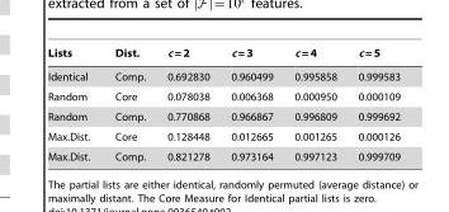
<table><thead><tr><td>Lists</td><td>Dist.</td><td>c = 2</td><td>c = 3</td><td>c = 4</td><td>c = 5</td></tr></thead><tbody><tr><td>Identical</td><td>Comp.</td><td>0.692830</td><td>0.960499</td><td>0.995858</td><td>0.999583</td></tr><tr><td>Random</td><td>Core</td><td>0.078038</td><td>0.006368</td><td>0.000950</td><td>0.000109</td></tr><tr><td>Random</td><td>Comp.</td><td>0.770868</td><td>0.966867</td><td>0.996809</td><td>0.999692</td></tr><tr><td>Max.Dist.</td><td>Core</td><td>0.128448</td><td>0.012665</td><td>0.001265</td><td>0.000126</td></tr><tr><td>Max.Dist.</td><td>Comp.</td><td>0.821278</td><td>0.973164</td><td>0.997123</td><td>0.999709</td></tr></tbody></table>